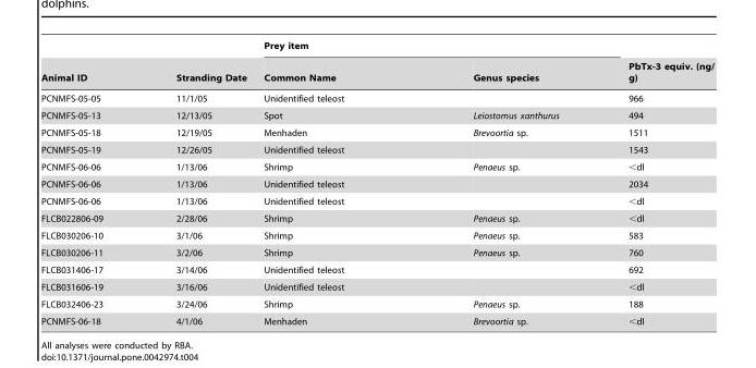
<table><thead><tr><td rowspan="2">Animal ID</td><td rowspan="2">Stranding Date</td><td colspan="2">Prey item</td><td rowspan="2">PbTx-3 equiv. (ng/ g)</td></tr><tr><td>Common Name</td><td>Genus species</td></tr></thead><tbody><tr><td>PCNMFS-05-05</td><td>11/1/05</td><td>Unidentified teleost</td><td></td><td>966</td></tr><tr><td>PCNMFS-05-13</td><td>12/13/05</td><td>Spot</td><td>Leiostomus xanthurus</td><td>494</td></tr><tr><td>PCNMFS-05-18</td><td>12/19/05</td><td>Menhaden</td><td>Brevoortia sp.</td><td>1511</td></tr><tr><td>PCNMFS-05-19</td><td>12/26/05</td><td>Unidentified teleost</td><td></td><td>1543</td></tr><tr><td>PCNMFS-06-06</td><td>1/13/06</td><td>Shrimp</td><td>Penaeus sp.</td><td>&lt;dl</td></tr><tr><td>PCNMFS-06-06</td><td>1/13/06</td><td>Unidentified teleost</td><td></td><td>2034</td></tr><tr><td>PCNMFS-06-06</td><td>1/13/06</td><td>Unidentified teleost</td><td></td><td>&lt;dl</td></tr><tr><td>FLCB022806-09</td><td>2/28/06</td><td>Shrimp</td><td>Penaeus sp.</td><td>&lt;dl</td></tr><tr><td>FLCB030206-10</td><td>3/1/06</td><td>Shrimp</td><td>Penaeus sp.</td><td>583</td></tr><tr><td>FLCB030206-11</td><td>3/2/06</td><td>Shrimp</td><td>Penaeus sp.</td><td>760</td></tr><tr><td>FLCB031406-17</td><td>3/14/06</td><td>Unidentified teleost</td><td></td><td>692</td></tr><tr><td>FLCB031606-19</td><td>3/16/06</td><td>Unidentified teleost</td><td></td><td>&lt;dl</td></tr><tr><td>FLCB032406-23</td><td>3/24/06</td><td>Shrimp</td><td>Penaeus sp.</td><td>188</td></tr><tr><td>PCNMFS-06-18</td><td>4/1/06</td><td>Menhaden</td><td>Brevoortia sp.</td><td>&lt;dl</td></tr></tbody></table>